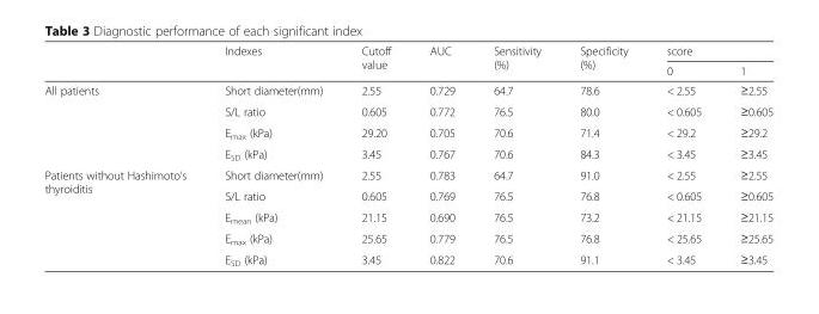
<table><thead><tr><td rowspan="2"></td><td rowspan="2">Indexes</td><td rowspan="2">Cutoff value</td><td rowspan="2">AUC</td><td rowspan="2">Sensitivity (%)</td><td rowspan="2">Specificity (%)</td><td colspan="2">score</td></tr><tr><td>0</td><td>1</td></tr></thead><tbody><tr><td rowspan="4">All patients</td><td>Short diameter(mm)</td><td>2.55</td><td>0.729</td><td>64.7</td><td>78.6</td><td>&lt; 2.55</td><td>≥2.55</td></tr><tr><td>S/L ratio</td><td>0.605</td><td>0.772</td><td>76.5</td><td>80.0</td><td>&lt; 0.605</td><td>≥0.605</td></tr><tr><td>E<sub>max</sub> (kPa)</td><td>29.20</td><td>0.705</td><td>70.6</td><td>71.4</td><td>&lt; 29.2</td><td>≥29.2</td></tr><tr><td>E<sub>SD</sub> (kPa)</td><td>3.45</td><td>0.767</td><td>70.6</td><td>84.3</td><td>&lt; 3.45</td><td>≥3.45</td></tr><tr><td rowspan="5">Patients without Hashimoto’s thyroiditis</td><td>Short diameter(mm)</td><td>2.55</td><td>0.783</td><td>64.7</td><td>91.0</td><td>&lt; 2.55</td><td>≥2.55</td></tr><tr><td>S/L ratio</td><td>0.605</td><td>0.769</td><td>76.5</td><td>76.8</td><td>&lt; 0.605</td><td>≥0.605</td></tr><tr><td>E<sub>mean</sub> (kPa)</td><td>21.15</td><td>0.690</td><td>76.5</td><td>73.2</td><td>&lt; 21.15</td><td>≥21.15</td></tr><tr><td>E<sub>max</sub> (kPa)</td><td>25.65</td><td>0.779</td><td>76.5</td><td>76.8</td><td>&lt; 25.65</td><td>≥25.65</td></tr><tr><td>E<sub>SD</sub> (kPa)</td><td>3.45</td><td>0.822</td><td>70.6</td><td>91.1</td><td>&lt; 3.45</td><td>≥3.45</td></tr></tbody></table>